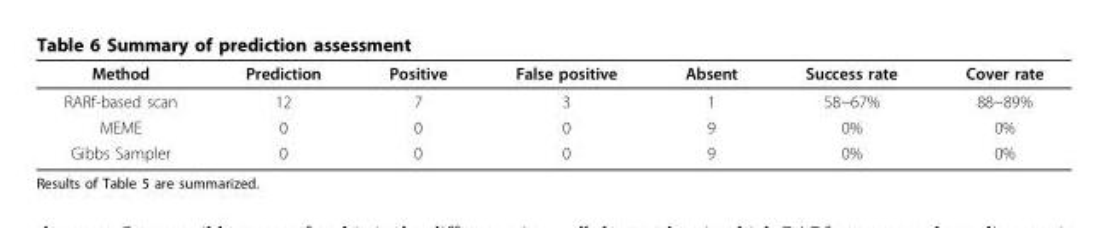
<table><thead><tr><td>Method</td><td>Prediction</td><td>Positive</td><td>False positive</td><td>Absent</td><td>Success rate</td><td>Cover rate</td></tr></thead><tbody><tr><td>RARf-based scan</td><td>12</td><td>7</td><td>3</td><td>1</td><td>58~67%</td><td>88~89%</td></tr><tr><td>MEME</td><td>0</td><td>0</td><td>0</td><td>9</td><td>0%</td><td>0%</td></tr><tr><td>Gibbs Sampler</td><td>0</td><td>0</td><td>0</td><td>9</td><td>0%</td><td>0%</td></tr></tbody></table>